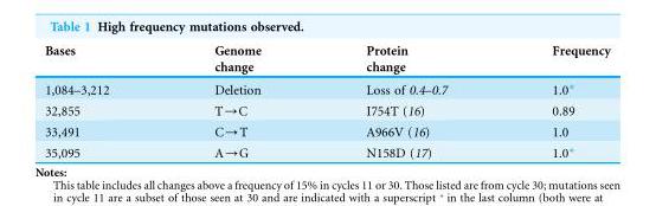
<table><thead><tr><td>Bases</td><td>Genome change</td><td>Protein change</td><td>Frequency</td></tr></thead><tbody><tr><td>1,084–3,212</td><td>Deletion</td><td>Loss of 0.4–0.7</td><td>1.0*</td></tr><tr><td>32,855</td><td>T→C</td><td>I754T (16)</td><td>0.89</td></tr><tr><td>33,491</td><td>C→T</td><td>A966V (16)</td><td>1.0</td></tr><tr><td>35,095</td><td>A→G</td><td>N158D (17)</td><td>1.0*</td></tr></tbody></table>